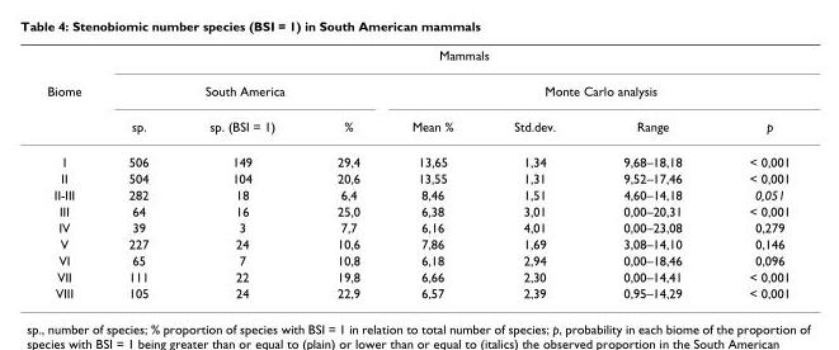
<table><thead><tr><td rowspan="3">Biome</td><td colspan="7">Mammals</td></tr><tr><td colspan="3">South America</td><td colspan="4">Monte Carlo analysis</td></tr><tr><td>sp.</td><td>sp. (BSI = 1)</td><td>%</td><td>Mean %</td><td>Std.dev.</td><td>Range</td><td>p</td></tr></thead><tbody><tr><td>I</td><td>506</td><td>149</td><td>29,4</td><td>13,65</td><td>1,34</td><td>9,68–18,18</td><td>&lt; 0,001</td></tr><tr><td>II</td><td>504</td><td>104</td><td>20,6</td><td>13,55</td><td>1,31</td><td>9,52–17,46</td><td>&lt; 0,001</td></tr><tr><td>II-III</td><td>282</td><td>18</td><td>6,4</td><td>8,46</td><td>1,51</td><td>4,60–14,18</td><td>0,051</td></tr><tr><td>III</td><td>64</td><td>16</td><td>25,0</td><td>6,38</td><td>3,01</td><td>0,00–20,31</td><td>&lt; 0,001</td></tr><tr><td>IV</td><td>39</td><td>3</td><td>7,7</td><td>6,16</td><td>4,01</td><td>0,00–23,08</td><td>0,279</td></tr><tr><td>V</td><td>227</td><td>24</td><td>10,6</td><td>7,86</td><td>1,69</td><td>3,08–14,10</td><td>0,146</td></tr><tr><td>VI</td><td>65</td><td>7</td><td>10,8</td><td>6,18</td><td>2,94</td><td>0,00–18,46</td><td>0,096</td></tr><tr><td>VII</td><td>111</td><td>22</td><td>19,8</td><td>6,66</td><td>2,30</td><td>0,00–14,41</td><td>&lt; 0,001</td></tr><tr><td>VIII</td><td>105</td><td>24</td><td>22,9</td><td>6,57</td><td>2,39</td><td>0,95–14,29</td><td>&lt; 0,001</td></tr></tbody></table>